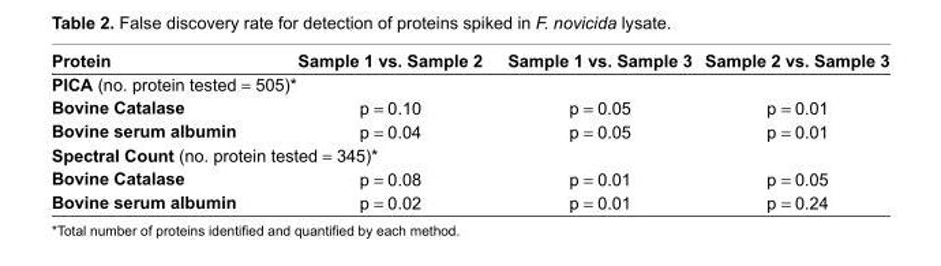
<table><thead><tr><td>Protein</td><td>Sample 1 vs. Sample 2</td><td>Sample 1 vs. Sample 3</td><td>Sample 2 vs. Sample 3</td></tr></thead><tbody><tr><td colspan="4">PICA (no. protein tested = 505)*</td></tr><tr><td>Bovine Catalase</td><td>p = 0.10</td><td>p = 0.05</td><td>p = 0.01</td></tr><tr><td>Bovine serum albumin</td><td>p = 0.04</td><td>p = 0.05</td><td>p = 0.01</td></tr><tr><td colspan="4">Spectral Count (no. protein tested = 345)*</td></tr><tr><td>Bovine Catalase</td><td>p = 0.08</td><td>p = 0.01</td><td>p = 0.05</td></tr><tr><td>Bovine serum albumin</td><td>p = 0.02</td><td>p = 0.01</td><td>p = 0.24</td></tr></tbody></table>